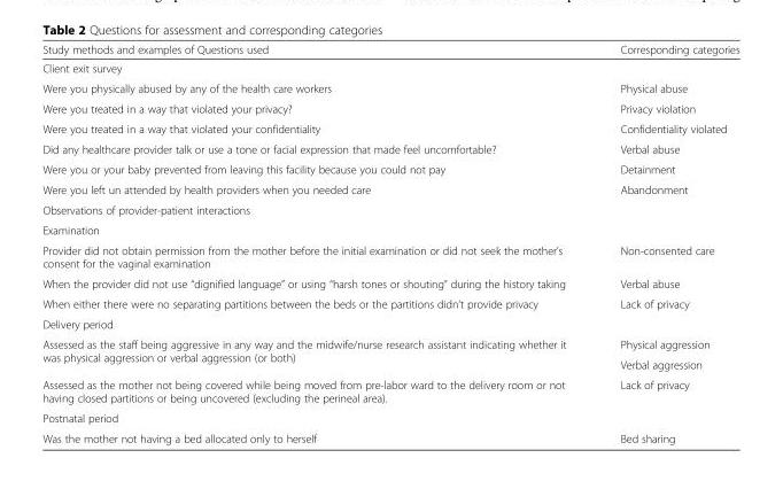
<table><thead><tr><td>Study methods and examples of Questions used</td><td>Corresponding categories</td></tr></thead><tbody><tr><td colspan="2">Client exit survey</td></tr><tr><td>Were you physically abused by any of the health care workers</td><td>Physical abuse</td></tr><tr><td>Were you treated in a way that violated your privacy?</td><td>Privacy violation</td></tr><tr><td>Were you treated in a way that violated your confidentiality</td><td>Confidentiality violated</td></tr><tr><td>Did any healthcare provider talk or use a tone or facial expression that made feel uncomfortable?</td><td>Verbal abuse</td></tr><tr><td>Were you or your baby prevented from leaving this facility because you could not pay</td><td>Detainment</td></tr><tr><td>Were you left un attended by health providers when you needed care</td><td>Abandonment</td></tr><tr><td colspan="2">Observations of provider-patient interactions</td></tr><tr><td colspan="2">Examination</td></tr><tr><td>Provider did not obtain permission from the mother before the initial examination or did not seek the mother’s consent for the vaginal examination</td><td>Non-consented care</td></tr><tr><td>When the provider did not use “dignified language” or using “harsh tones or shouting” during the history taking</td><td>Verbal abuse</td></tr><tr><td>When either there were no separating partitions between the beds or the partitions didn’t provide privacy</td><td>Lack of privacy</td></tr><tr><td colspan="2">Delivery period</td></tr><tr><td rowspan="2">Assessed as the staff being aggressive in any way and the midwife/nurse research assistant indicating whether it was physical aggression or verbal aggression (or both)</td><td>Physical aggression</td></tr><tr><td>Verbal aggression</td></tr><tr><td>Assessed as the mother not being covered while being moved from pre-labor ward to the delivery room or not having closed partitions or being uncovered (excluding the perineal area).</td><td>Lack of privacy</td></tr><tr><td colspan="2">Postnatal period</td></tr><tr><td>Was the mother not having a bed allocated only to herself</td><td>Bed sharing</td></tr></tbody></table>